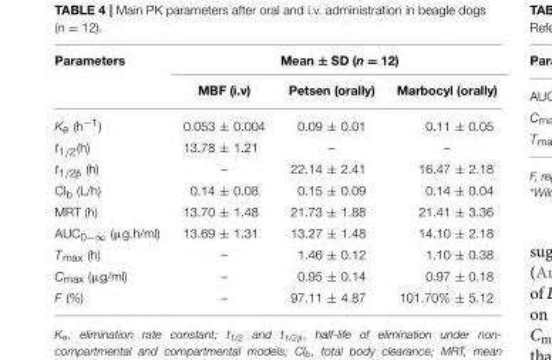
<table><thead><tr><td rowspan="2">Parameters</td><td colspan="3">Mean ± SD (n = 12)</td></tr><tr><td>MBF (i.v)</td><td>Petsen (orally)</td><td>Marbocyl (orally)</td></tr></thead><tbody><tr><td>Ke (h−1)</td><td>0.053 ± 0.004</td><td>0.09 ± 0.01</td><td>0.11 ± 0.05</td></tr><tr><td>t<sub>1/2</sub>(h)</td><td>13.78 ± 1.21</td><td>–</td><td>–</td></tr><tr><td>t<sub>1/2β</sub> (h)</td><td>–</td><td>22.14 ± 2.41</td><td>16.47 ± 2.18</td></tr><tr><td>Cl<sub>b</sub> (L/h)</td><td>0.14 ± 0.08</td><td>0.15 ± 0.09</td><td>0.14 ± 0.04</td></tr><tr><td>MRT (h)</td><td>13.70 ± 1.48</td><td>21.73 ± 1.88</td><td>21.41 ± 3.36</td></tr><tr><td>AUC<sub>0−∞</sub> (µg.h/ml)</td><td>13.69 ± 1.31</td><td>13.27 ± 1.48</td><td>14.10 ± 2.18</td></tr><tr><td>T<sub>max</sub> (h)</td><td>–</td><td>1.46 ± 0.12</td><td>1.10 ± 0.38</td></tr><tr><td>C<sub>max</sub> (µg/ml)</td><td>–</td><td>0.95 ± 0.14</td><td>0.97 ± 0.18</td></tr><tr><td>F (%)</td><td>–</td><td>97.11 ± 4.87</td><td>101.70% ± 5.12</td></tr></tbody></table>